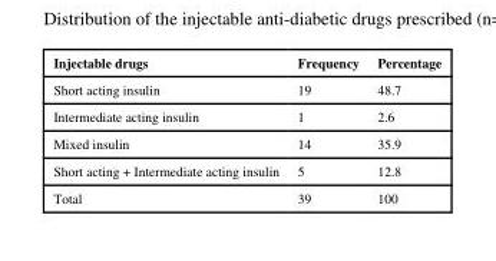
<table><thead><tr><td>Injectable drugs</td><td>Frequency</td><td>Percentage</td></tr></thead><tbody><tr><td>Short acting insulin</td><td>19</td><td>48.7</td></tr><tr><td>Intermediate acting insulin</td><td>1</td><td>2.6</td></tr><tr><td>Mixed insulin</td><td>14</td><td>35.9</td></tr><tr><td>Short acting + Intermediate acting insulin</td><td>5</td><td>12.8</td></tr><tr><td>Total</td><td>39</td><td>100</td></tr></tbody></table>